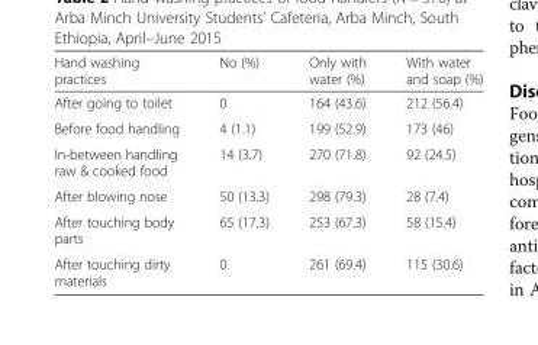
<table><thead><tr><td>Hand washing practices</td><td>No (%)</td><td>Only with water (%)</td><td>With water and soap (%)</td></tr></thead><tbody><tr><td>After going to toilet</td><td>0</td><td>164 (43.6)</td><td>212 (56.4)</td></tr><tr><td>Before food handling</td><td>4 (1.1)</td><td>199 (52.9)</td><td>173 (46)</td></tr><tr><td>In-between handling raw &amp; cooked food</td><td>14 (3.7)</td><td>270 (71.8)</td><td>92 (24.5)</td></tr><tr><td>After blowing nose</td><td>50 (13.3)</td><td>298 (79.3)</td><td>28 (7.4)</td></tr><tr><td>After touching body parts</td><td>65 (17.3)</td><td>253 (67.3)</td><td>58 (15.4)</td></tr><tr><td>After touching dirty materials</td><td>0</td><td>261 (69.4)</td><td>115 (30.6)</td></tr></tbody></table>